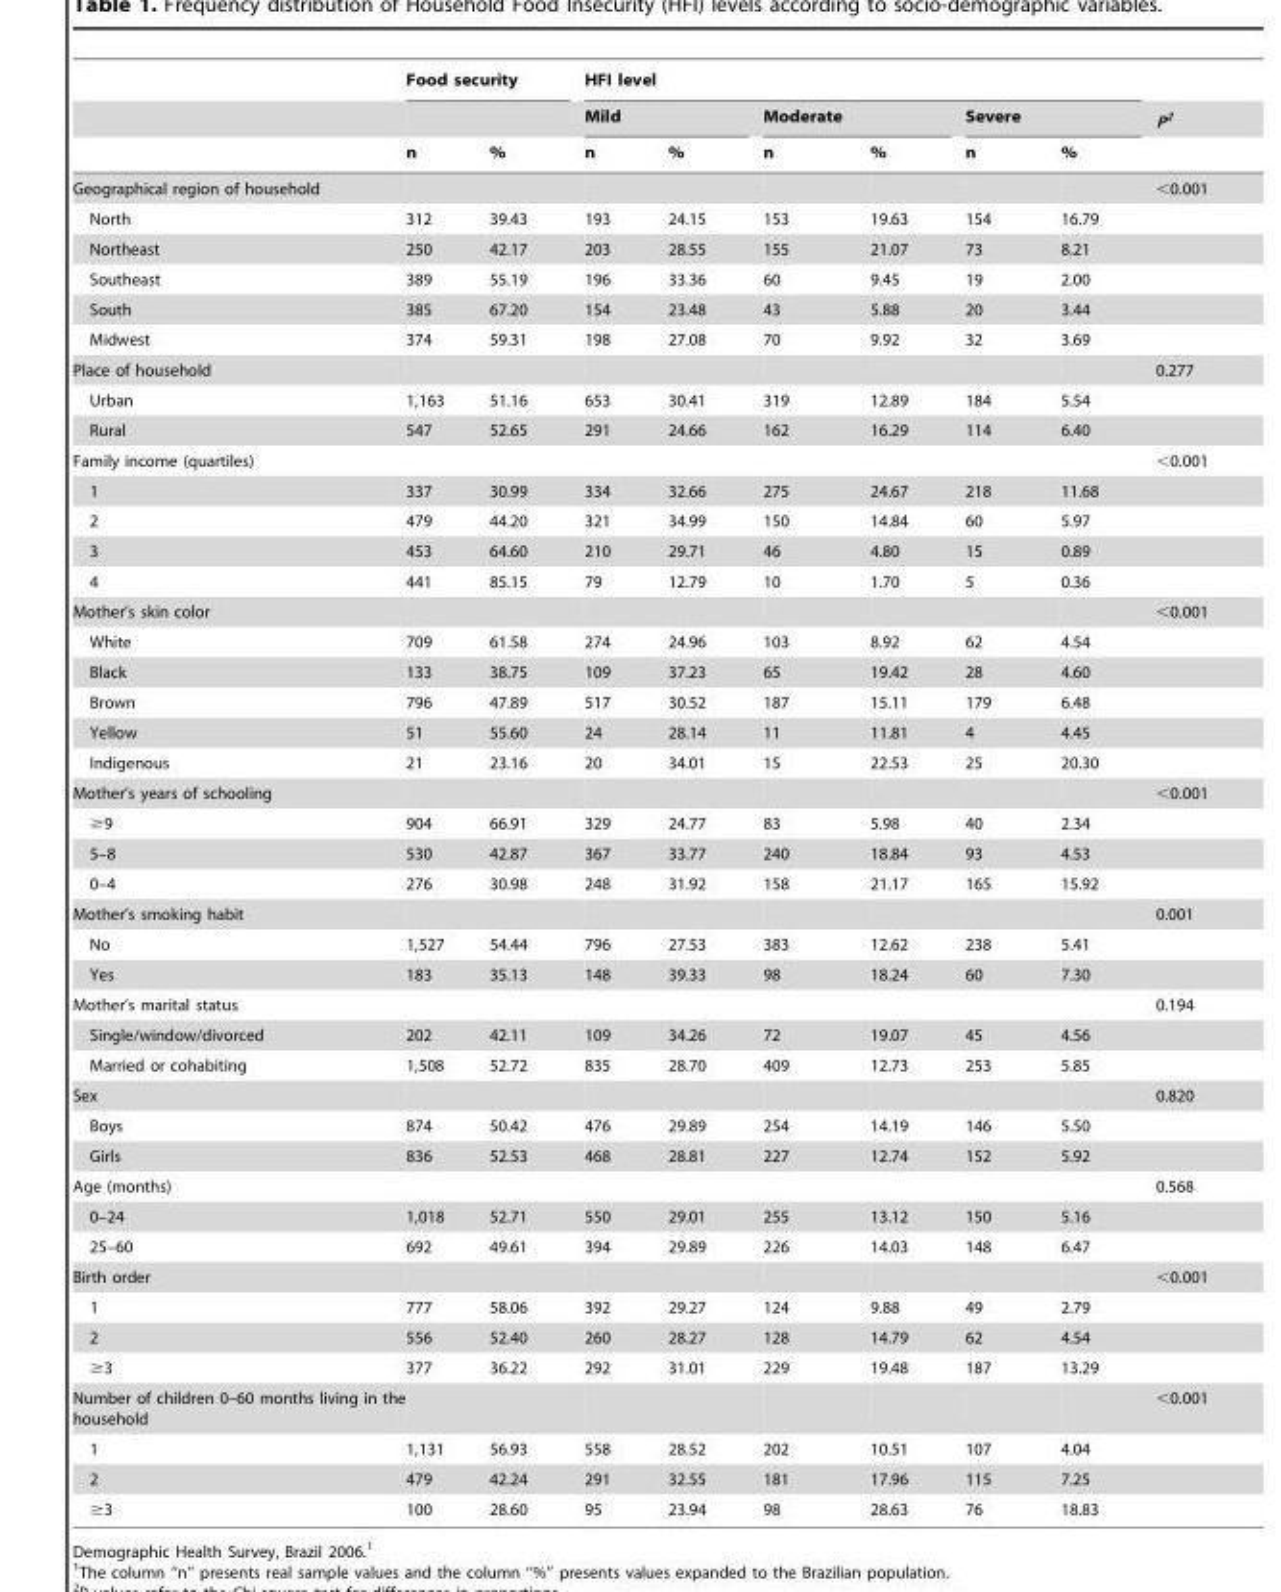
<table><thead><tr><td rowspan="3"></td><td colspan="2">Food security</td><td colspan="6">HFI level</td><td rowspan="3">P2</td></tr><tr><td rowspan="2">n</td><td rowspan="2">%</td><td colspan="2">Mild</td><td colspan="2">Moderate</td><td colspan="2">Severe</td></tr><tr><td>n</td><td>%</td><td>n</td><td>%</td><td>n</td><td>%</td></tr></thead><tbody><tr><td>Geographical region of household</td><td></td><td></td><td></td><td></td><td></td><td></td><td></td><td></td><td>&lt;0.001</td></tr><tr><td>North</td><td>312</td><td>39.43</td><td>193</td><td>24.15</td><td>153</td><td>19.63</td><td>154</td><td>16.79</td><td></td></tr><tr><td>Northeast</td><td>250</td><td>42.17</td><td>203</td><td>28.55</td><td>155</td><td>21.07</td><td>73</td><td>8.21</td><td></td></tr><tr><td>Southeast</td><td>389</td><td>55.19</td><td>196</td><td>33.36</td><td>60</td><td>9.45</td><td>19</td><td>2.00</td><td></td></tr><tr><td>South</td><td>385</td><td>67.20</td><td>154</td><td>23.48</td><td>43</td><td>5.88</td><td>20</td><td>3.44</td><td></td></tr><tr><td>Midwest</td><td>374</td><td>59.31</td><td>198</td><td>27.08</td><td>70</td><td>9.92</td><td>32</td><td>3.69</td><td></td></tr><tr><td>Place of household</td><td></td><td></td><td></td><td></td><td></td><td></td><td></td><td></td><td>0.277</td></tr><tr><td>Urban</td><td>1,163</td><td>51.16</td><td>653</td><td>30.41</td><td>319</td><td>12.89</td><td>184</td><td>5.54</td><td></td></tr><tr><td>Rural</td><td>547</td><td>52.65</td><td>291</td><td>24.66</td><td>162</td><td>16.29</td><td>114</td><td>6.40</td><td></td></tr><tr><td>Family income (quartiles)</td><td></td><td></td><td></td><td></td><td></td><td></td><td></td><td></td><td>&lt;0.001</td></tr><tr><td>1</td><td>337</td><td>30.99</td><td>334</td><td>32.66</td><td>275</td><td>24.67</td><td>218</td><td>11.68</td><td></td></tr><tr><td>2</td><td>479</td><td>44.20</td><td>321</td><td>34.99</td><td>150</td><td>14.84</td><td>60</td><td>5.97</td><td></td></tr><tr><td>3</td><td>453</td><td>64.60</td><td>210</td><td>29.71</td><td>46</td><td>4.80</td><td>15</td><td>0.89</td><td></td></tr><tr><td>4</td><td>441</td><td>85.15</td><td>79</td><td>12.79</td><td>10</td><td>1.70</td><td>5</td><td>0.36</td><td></td></tr><tr><td>Mother’s skin color</td><td></td><td></td><td></td><td></td><td></td><td></td><td></td><td></td><td>&lt;0.001</td></tr><tr><td>White</td><td>709</td><td>61.58</td><td>274</td><td>24.96</td><td>103</td><td>8.92</td><td>62</td><td>4.54</td><td></td></tr><tr><td>Black</td><td>133</td><td>38.75</td><td>109</td><td>37.23</td><td>65</td><td>19.42</td><td>28</td><td>4.60</td><td></td></tr><tr><td>Brown</td><td>796</td><td>47.89</td><td>517</td><td>30.52</td><td>187</td><td>15.11</td><td>179</td><td>6.48</td><td></td></tr><tr><td>Yellow</td><td>51</td><td>55.60</td><td>24</td><td>28.14</td><td>11</td><td>11.81</td><td>4</td><td>4.45</td><td></td></tr><tr><td>Indigenous</td><td>21</td><td>23.16</td><td>20</td><td>34.01</td><td>15</td><td>22.53</td><td>25</td><td>20.30</td><td></td></tr><tr><td>Mother’s years of schooling</td><td></td><td></td><td></td><td></td><td></td><td></td><td></td><td></td><td>&lt;0.001</td></tr><tr><td>≥9</td><td>904</td><td>66.91</td><td>329</td><td>24.77</td><td>83</td><td>5.98</td><td>40</td><td>2.34</td><td></td></tr><tr><td>5–8</td><td>530</td><td>42.87</td><td>367</td><td>33.77</td><td>240</td><td>18.84</td><td>93</td><td>4.53</td><td></td></tr><tr><td>0–4</td><td>276</td><td>30.98</td><td>248</td><td>31.92</td><td>158</td><td>21.17</td><td>165</td><td>15.92</td><td></td></tr><tr><td>Mother’s smoking habit</td><td></td><td></td><td></td><td></td><td></td><td></td><td></td><td></td><td>0.001</td></tr><tr><td>No</td><td>1,527</td><td>54.44</td><td>796</td><td>27.53</td><td>383</td><td>12.62</td><td>238</td><td>5.41</td><td></td></tr><tr><td>Yes</td><td>183</td><td>35.13</td><td>148</td><td>39.33</td><td>98</td><td>18.24</td><td>60</td><td>7.30</td><td></td></tr><tr><td>Mother’s marital status</td><td></td><td></td><td></td><td></td><td></td><td></td><td></td><td></td><td>0.194</td></tr><tr><td>Single/window/divorced</td><td>202</td><td>42.11</td><td>109</td><td>34.26</td><td>72</td><td>19.07</td><td>45</td><td>4.56</td><td></td></tr><tr><td>Married or cohabiting</td><td>1,508</td><td>52.72</td><td>835</td><td>28.70</td><td>409</td><td>12.73</td><td>253</td><td>5.85</td><td></td></tr><tr><td>Sex</td><td></td><td></td><td></td><td></td><td></td><td></td><td></td><td></td><td>0.820</td></tr><tr><td>Boys</td><td>874</td><td>50.42</td><td>476</td><td>29.89</td><td>254</td><td>14.19</td><td>146</td><td>5.50</td><td></td></tr><tr><td>Girls</td><td>836</td><td>52.53</td><td>468</td><td>28.81</td><td>227</td><td>12.74</td><td>152</td><td>5.92</td><td></td></tr><tr><td>Age (months)</td><td></td><td></td><td></td><td></td><td></td><td></td><td></td><td></td><td>0.568</td></tr><tr><td>0–24</td><td>1,018</td><td>52.71</td><td>550</td><td>29.01</td><td>255</td><td>13.12</td><td>150</td><td>5.16</td><td></td></tr><tr><td>25–60</td><td>692</td><td>49.61</td><td>394</td><td>29.89</td><td>226</td><td>14.03</td><td>148</td><td>6.47</td><td></td></tr><tr><td>Birth order</td><td></td><td></td><td></td><td></td><td></td><td></td><td></td><td></td><td>&lt;0.001</td></tr><tr><td>1</td><td>777</td><td>58.06</td><td>392</td><td>29.27</td><td>124</td><td>9.88</td><td>49</td><td>2.79</td><td></td></tr><tr><td>2</td><td>556</td><td>52.40</td><td>260</td><td>28.27</td><td>128</td><td>14.79</td><td>62</td><td>4.54</td><td></td></tr><tr><td>≥3</td><td>377</td><td>36.22</td><td>292</td><td>31.01</td><td>229</td><td>19.48</td><td>187</td><td>13.29</td><td></td></tr><tr><td>Number of children 0–60 months living in the household</td><td></td><td></td><td></td><td></td><td></td><td></td><td></td><td></td><td>&lt;0.001</td></tr><tr><td>1</td><td>1,131</td><td>56.93</td><td>558</td><td>28.52</td><td>202</td><td>10.51</td><td>107</td><td>4.04</td><td></td></tr><tr><td>2</td><td>479</td><td>42.24</td><td>291</td><td>32.55</td><td>181</td><td>17.96</td><td>115</td><td>7.25</td><td></td></tr><tr><td>≥3</td><td>100</td><td>28.60</td><td>95</td><td>23.94</td><td>98</td><td>28.63</td><td>76</td><td>18.83</td><td></td></tr></tbody></table>